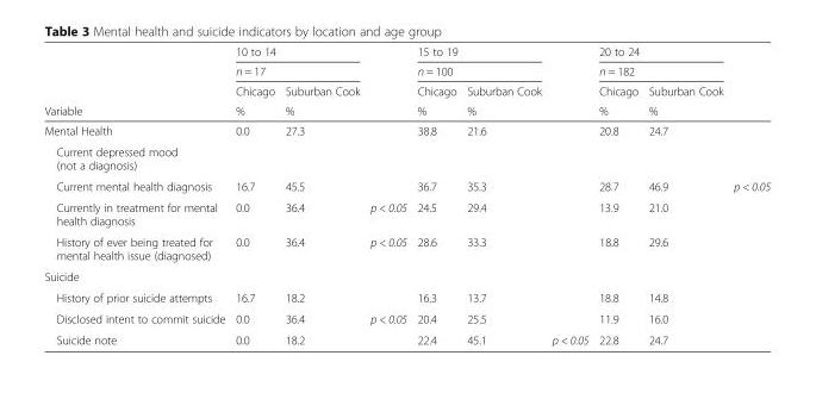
<table><thead><tr><td rowspan="4">Variable</td><td rowspan="2" colspan="2">10 to 14 n = 17</td><td rowspan="4"></td><td rowspan="2" colspan="2">15 to 19 n = 100</td><td rowspan="4"></td><td rowspan="2" colspan="2">20 to 24 n = 182</td><td rowspan="4"></td></tr><tr></tr><tr><td rowspan="2">Chicago %</td><td rowspan="2">Suburban Cook %</td><td rowspan="2">Chicago %</td><td rowspan="2">Suburban Cook %</td><td rowspan="2">Chicago %</td><td rowspan="2">Suburban Cook %</td></tr><tr></tr></thead><tbody><tr><td>Mental Health</td><td>0.0</td><td>27.3</td><td></td><td>38.8</td><td>21.6</td><td></td><td>20.8</td><td>24.7</td><td></td></tr><tr><td colspan="10">Current depressed mood (not a diagnosis)</td></tr><tr><td>Current mental health diagnosis</td><td>16.7</td><td>45.5</td><td></td><td>36.7</td><td>35.3</td><td></td><td>28.7</td><td>46.9</td><td>p &lt; 0.05</td></tr><tr><td>Currently in treatment for mental health diagnosis</td><td>0.0</td><td>36.4</td><td>p &lt; 0.05</td><td>24.5</td><td>29.4</td><td></td><td>13.9</td><td>21.0</td><td></td></tr><tr><td>History of ever being treated for mental health issue (diagnosed)</td><td>0.0</td><td>36.4</td><td>p &lt; 0.05</td><td>28.6</td><td>33.3</td><td></td><td>18.8</td><td>29.6</td><td></td></tr><tr><td colspan="10">Suicide</td></tr><tr><td>History of prior suicide attempts</td><td>16.7</td><td>18.2</td><td></td><td>16.3</td><td>13.7</td><td></td><td>18.8</td><td>14.8</td><td></td></tr><tr><td>Disclosed intent to commit suicide</td><td>0.0</td><td>36.4</td><td>p &lt; 0.05</td><td>20.4</td><td>25.5</td><td></td><td>11.9</td><td>16.0</td><td></td></tr><tr><td>Suicide note</td><td>0.0</td><td>18.2</td><td></td><td>22.4</td><td>45.1</td><td>p &lt; 0.05</td><td>22.8</td><td>24.7</td><td></td></tr></tbody></table>